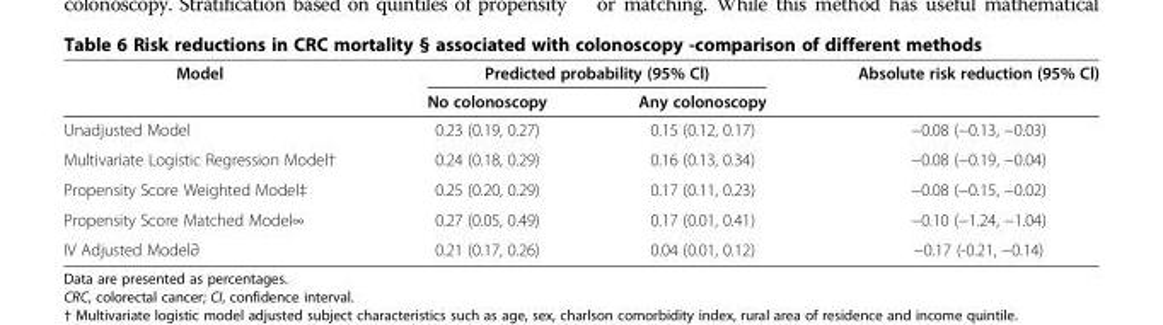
<table><thead><tr><td rowspan="2">Model</td><td colspan="2">Predicted probability (95% Cl)</td><td rowspan="2">Absolute risk reduction (95% Cl)</td></tr><tr><td>No colonoscopy</td><td>Any colonoscopy</td></tr></thead><tbody><tr><td>Unadjusted Model</td><td>0.23 (0.19, 0.27)</td><td>0.15 (0.12, 0.17)</td><td>−0.08 (−0.13, −0.03)</td></tr><tr><td>Multivariate Logistic Regression Model†</td><td>0.24 (0.18, 0.29)</td><td>0.16 (0.13, 0.34)</td><td>−0.08 (−0.19, −0.04)</td></tr><tr><td>Propensity Score Weighted Model‡</td><td>0.25 (0.20, 0.29)</td><td>0.17 (0.11, 0.23)</td><td>−0.08 (−0.15, −0.02)</td></tr><tr><td>Propensity Score Matched Model∞</td><td>0.27 (0.05, 0.49)</td><td>0.17 (0.01, 0.41)</td><td>−0.10 (−1.24, −1.04)</td></tr><tr><td>IV Adjusted Model∂</td><td>0.21 (0.17, 0.26)</td><td>0.04 (0.01, 0.12)</td><td>−0.17 (-0.21, −0.14)</td></tr></tbody></table>